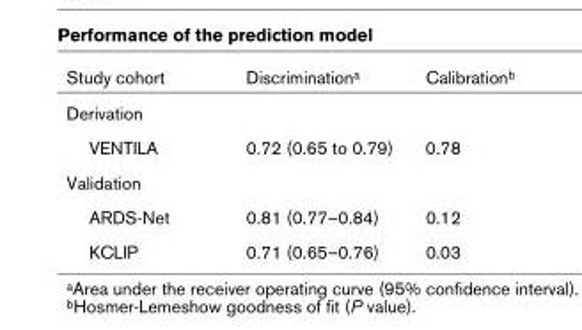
<table><thead><tr><td>Study cohort</td><td>Discrimination<sup>a</sup></td><td>Calibration<sup>b</sup></td></tr></thead><tbody><tr><td colspan="3">Derivation</td></tr><tr><td>VENTILA</td><td>0.72 (0.65 to 0.79)</td><td>0.78</td></tr><tr><td colspan="3">Validation</td></tr><tr><td>ARDS-Net</td><td>0.81 (0.77–0.84)</td><td>0.12</td></tr><tr><td>KCLIP</td><td>0.71 (0.65–0.76)</td><td>0.03</td></tr></tbody></table>